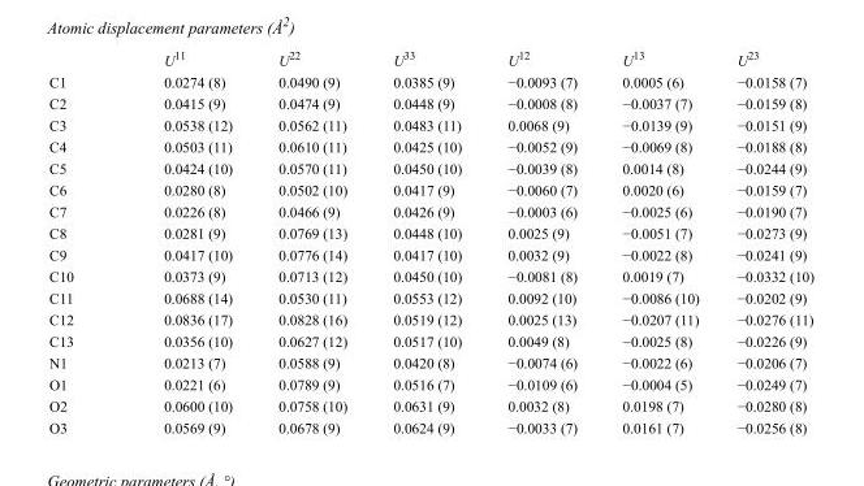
<table><thead><tr><td></td><td>U<sup>11</sup></td><td>U<sup>22</sup></td><td>U<sup>33</sup></td><td>U<sup>12</sup></td><td>U<sup>13</sup></td><td>U<sup>23</sup></td></tr></thead><tbody><tr><td>C1</td><td>0.0274 (8)</td><td>0.0490 (9)</td><td>0.0385 (9)</td><td>−0.0093 (7)</td><td>0.0005 (6)</td><td>−0.0158 (7)</td></tr><tr><td>C2</td><td>0.0415 (9)</td><td>0.0474 (9)</td><td>0.0448 (9)</td><td>−0.0008 (8)</td><td>−0.0037 (7)</td><td>−0.0159 (8)</td></tr><tr><td>C3</td><td>0.0538 (12)</td><td>0.0562 (11)</td><td>0.0483 (11)</td><td>0.0068 (9)</td><td>−0.0139 (9)</td><td>−0.0151 (9)</td></tr><tr><td>C4</td><td>0.0503 (11)</td><td>0.0610 (11)</td><td>0.0425 (10)</td><td>−0.0052 (9)</td><td>−0.0069 (8)</td><td>−0.0188 (8)</td></tr><tr><td>C5</td><td>0.0424 (10)</td><td>0.0570 (11)</td><td>0.0450 (10)</td><td>−0.0039 (8)</td><td>0.0014 (8)</td><td>−0.0244 (9)</td></tr><tr><td>C6</td><td>0.0280 (8)</td><td>0.0502 (10)</td><td>0.0417 (9)</td><td>−0.0060 (7)</td><td>0.0020 (6)</td><td>−0.0159 (7)</td></tr><tr><td>C7</td><td>0.0226 (8)</td><td>0.0466 (9)</td><td>0.0426 (9)</td><td>−0.0003 (6)</td><td>−0.0025 (6)</td><td>−0.0190 (7)</td></tr><tr><td>C8</td><td>0.0281 (9)</td><td>0.0769 (13)</td><td>0.0448 (10)</td><td>0.0025 (9)</td><td>−0.0051 (7)</td><td>−0.0273 (9)</td></tr><tr><td>C9</td><td>0.0417 (10)</td><td>0.0776 (14)</td><td>0.0417 (10)</td><td>0.0032 (9)</td><td>−0.0022 (8)</td><td>−0.0241 (9)</td></tr><tr><td>C10</td><td>0.0373 (9)</td><td>0.0713 (12)</td><td>0.0450 (10)</td><td>−0.0081 (8)</td><td>0.0019 (7)</td><td>−0.0332 (10)</td></tr><tr><td>C11</td><td>0.0688 (14)</td><td>0.0530 (11)</td><td>0.0553 (12)</td><td>0.0092 (10)</td><td>−0.0086 (10)</td><td>−0.0202 (9)</td></tr><tr><td>C12</td><td>0.0836 (17)</td><td>0.0828 (16)</td><td>0.0519 (12)</td><td>0.0025 (13)</td><td>−0.0207 (11)</td><td>−0.0276 (11)</td></tr><tr><td>C13</td><td>0.0356 (10)</td><td>0.0627 (12)</td><td>0.0517 (10)</td><td>0.0049 (8)</td><td>−0.0025 (8)</td><td>−0.0226 (9)</td></tr><tr><td>N1</td><td>0.0213 (7)</td><td>0.0588 (9)</td><td>0.0420 (8)</td><td>−0.0074 (6)</td><td>−0.0022 (6)</td><td>−0.0206 (7)</td></tr><tr><td>O1</td><td>0.0221 (6)</td><td>0.0789 (9)</td><td>0.0516 (7)</td><td>−0.0109 (6)</td><td>−0.0004 (5)</td><td>−0.0249 (7)</td></tr><tr><td>O2</td><td>0.0600 (10)</td><td>0.0758 (10)</td><td>0.0631 (9)</td><td>0.0032 (8)</td><td>0.0198 (7)</td><td>−0.0280 (8)</td></tr><tr><td>O3</td><td>0.0569 (9)</td><td>0.0678 (9)</td><td>0.0624 (9)</td><td>−0.0033 (7)</td><td>0.0161 (7)</td><td>−0.0256 (8)</td></tr></tbody></table>